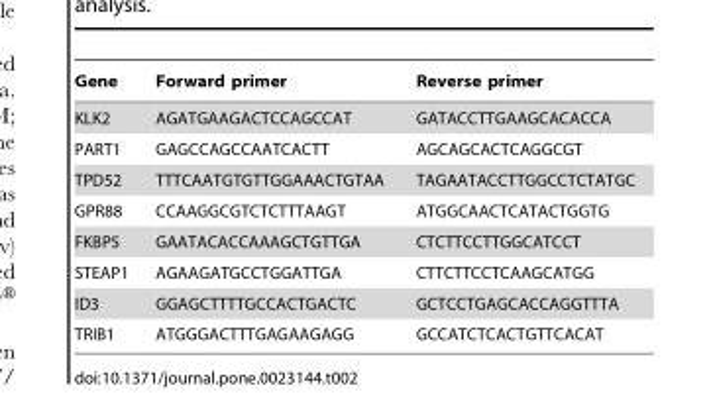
<table><thead><tr><td>Gene</td><td>Forward primer</td><td>Reverse primer</td></tr></thead><tbody><tr><td>KLK2</td><td>AGATGAAGACTCCAGCCAT</td><td>GATACCTTGAAGCACACCA</td></tr><tr><td>PART1</td><td>GAGCCAGCCAATCACTT</td><td>AGCAGCACTCAGGCGT</td></tr><tr><td>TPD52</td><td>TTTCAATGTGTTGGAAACTGTAA</td><td>TAGAATACCTTGGCCTCTATGC</td></tr><tr><td>GPR88</td><td>CCAAGGCGTCTCTTTAAGT</td><td>ATGGCAACTCATACTGGTG</td></tr><tr><td>FKBP5</td><td>GAATACACCAAAGCTGTTGA</td><td>CTCTTCCTTGGCATCCT</td></tr><tr><td>STEAP1</td><td>AGAAGATGCCTGGATTGA</td><td>CTTCTTCCTCAAGCATGG</td></tr><tr><td>ID3</td><td>GGAGCTTTTGCCACTGACTC</td><td>GCTCCTGAGCACCAGGTTTA</td></tr><tr><td>TRIB1</td><td>ATGGGACTTTGAGAAGAGG</td><td>GCCATCTCACTGTTCACAT</td></tr></tbody></table>